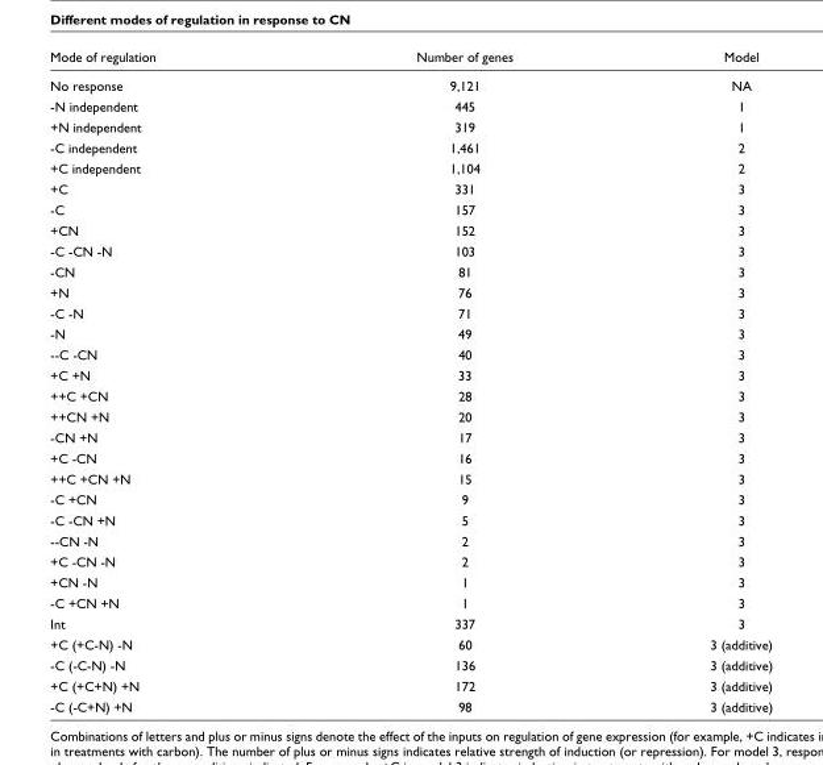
<table><thead><tr><td>Mode of regulation</td><td>Number of genes</td><td>Model</td></tr></thead><tbody><tr><td>No response</td><td>9,121</td><td>NA</td></tr><tr><td>-N independent</td><td>445</td><td>1</td></tr><tr><td>+N independent</td><td>319</td><td>1</td></tr><tr><td>-C independent</td><td>1,461</td><td>2</td></tr><tr><td>+C independent</td><td>1,104</td><td>2</td></tr><tr><td>+C</td><td>331</td><td>3</td></tr><tr><td>-C</td><td>157</td><td>3</td></tr><tr><td>+CN</td><td>152</td><td>3</td></tr><tr><td>-C -CN -N</td><td>103</td><td>3</td></tr><tr><td>-CN</td><td>81</td><td>3</td></tr><tr><td>+N</td><td>76</td><td>3</td></tr><tr><td>-C -N</td><td>71</td><td>3</td></tr><tr><td>-N</td><td>49</td><td>3</td></tr><tr><td>--C -CN</td><td>40</td><td>3</td></tr><tr><td>+C +N</td><td>33</td><td>3</td></tr><tr><td>++C +CN</td><td>28</td><td>3</td></tr><tr><td>++CN +N</td><td>20</td><td>3</td></tr><tr><td>-CN +N</td><td>17</td><td>3</td></tr><tr><td>+C -CN</td><td>16</td><td>3</td></tr><tr><td>++C +CN +N</td><td>15</td><td>3</td></tr><tr><td>-C +CN</td><td>9</td><td>3</td></tr><tr><td>-C -CN +N</td><td>5</td><td>3</td></tr><tr><td>--CN -N</td><td>2</td><td>3</td></tr><tr><td>+C -CN -N</td><td>2</td><td>3</td></tr><tr><td>+CN -N</td><td>1</td><td>3</td></tr><tr><td>-C +CN +N</td><td>1</td><td>3</td></tr><tr><td>Int</td><td>337</td><td>3</td></tr><tr><td>+C (+C-N) -N</td><td>60</td><td>3 (additive)</td></tr><tr><td>-C (-C-N) -N</td><td>136</td><td>3 (additive)</td></tr><tr><td>+C (+C+N) +N</td><td>172</td><td>3 (additive)</td></tr><tr><td>-C (-C+N) +N</td><td>98</td><td>3 (additive)</td></tr></tbody></table>